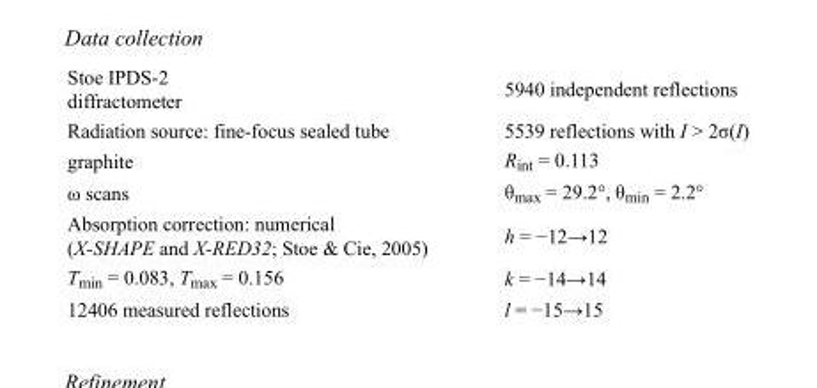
<table><tbody><tr><td>Stoe IPDS-2 diffractometer</td><td>5940 independent reflections</td></tr><tr><td>Radiation source: fine-focus sealed tube</td><td>5539 reflections with I &gt; 2σ(I)</td></tr><tr><td>graphite</td><td>R<sub>int</sub> = 0.113</td></tr><tr><td>ω scans</td><td>θ<sub>max</sub> = 29.2°, θ<sub>min</sub> = 2.2°</td></tr><tr><td>Absorption correction: numerical (X-SHAPE and X-RED32; Stoe &amp; Cie, 2005)</td><td>h = −12→12</td></tr><tr><td>T<sub>min</sub> = 0.083, T<sub>max</sub> = 0.156</td><td>k = −14→14</td></tr><tr><td>12406 measured reflections</td><td>l = −15→15</td></tr></tbody></table>